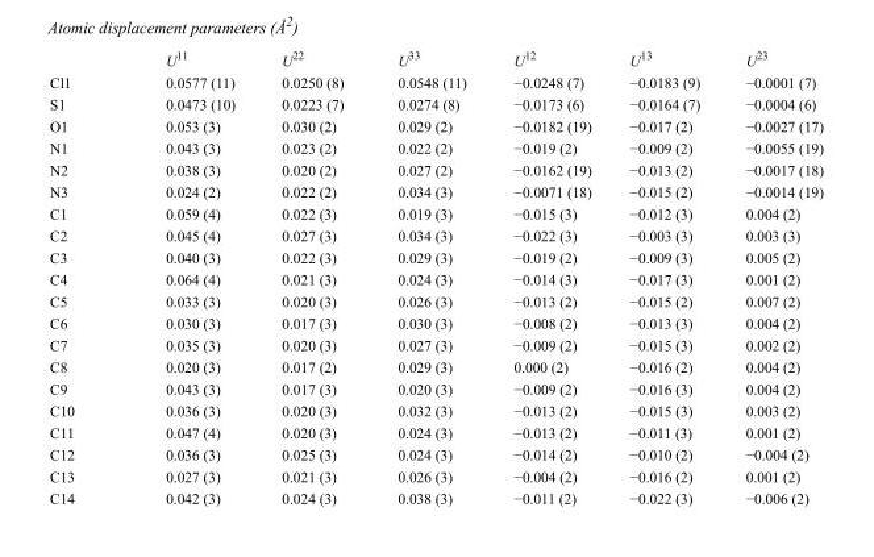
<table><thead><tr><td></td><td>U<sup>11</sup></td><td>U<sup>22</sup></td><td>U<sup>33</sup></td><td>U<sup>12</sup></td><td>U<sup>13</sup></td><td>U<sup>23</sup></td></tr></thead><tbody><tr><td>Cl1</td><td>0.0577 (11)</td><td>0.0250 (8)</td><td>0.0548 (11)</td><td>−0.0248 (7)</td><td>−0.0183 (9)</td><td>−0.0001 (7)</td></tr><tr><td>S1</td><td>0.0473 (10)</td><td>0.0223 (7)</td><td>0.0274 (8)</td><td>−0.0173 (6)</td><td>−0.0164 (7)</td><td>−0.0004 (6)</td></tr><tr><td>O1</td><td>0.053 (3)</td><td>0.030 (2)</td><td>0.029 (2)</td><td>−0.0182 (19)</td><td>−0.017 (2)</td><td>−0.0027 (17)</td></tr><tr><td>N1</td><td>0.043 (3)</td><td>0.023 (2)</td><td>0.022 (2)</td><td>−0.019 (2)</td><td>−0.009 (2)</td><td>−0.0055 (19)</td></tr><tr><td>N2</td><td>0.038 (3)</td><td>0.020 (2)</td><td>0.027 (2)</td><td>−0.0162 (19)</td><td>−0.013 (2)</td><td>−0.0017 (18)</td></tr><tr><td>N3</td><td>0.024 (2)</td><td>0.022 (2)</td><td>0.034 (3)</td><td>−0.0071 (18)</td><td>−0.015 (2)</td><td>−0.0014 (19)</td></tr><tr><td>C1</td><td>0.059 (4)</td><td>0.022 (3)</td><td>0.019 (3)</td><td>−0.015 (3)</td><td>−0.012 (3)</td><td>0.004 (2)</td></tr><tr><td>C2</td><td>0.045 (4)</td><td>0.027 (3)</td><td>0.034 (3)</td><td>−0.022 (3)</td><td>−0.003 (3)</td><td>0.003 (3)</td></tr><tr><td>C3</td><td>0.040 (3)</td><td>0.022 (3)</td><td>0.029 (3)</td><td>−0.019 (2)</td><td>−0.009 (3)</td><td>0.005 (2)</td></tr><tr><td>C4</td><td>0.064 (4)</td><td>0.021 (3)</td><td>0.024 (3)</td><td>−0.014 (3)</td><td>−0.017 (3)</td><td>0.001 (2)</td></tr><tr><td>C5</td><td>0.033 (3)</td><td>0.020 (3)</td><td>0.026 (3)</td><td>−0.013 (2)</td><td>−0.015 (2)</td><td>0.007 (2)</td></tr><tr><td>C6</td><td>0.030 (3)</td><td>0.017 (3)</td><td>0.030 (3)</td><td>−0.008 (2)</td><td>−0.013 (3)</td><td>0.004 (2)</td></tr><tr><td>C7</td><td>0.035 (3)</td><td>0.020 (3)</td><td>0.027 (3)</td><td>−0.009 (2)</td><td>−0.015 (3)</td><td>0.002 (2)</td></tr><tr><td>C8</td><td>0.020 (3)</td><td>0.017 (2)</td><td>0.029 (3)</td><td>0.000 (2)</td><td>−0.016 (2)</td><td>0.004 (2)</td></tr><tr><td>C9</td><td>0.043 (3)</td><td>0.017 (3)</td><td>0.020 (3)</td><td>−0.009 (2)</td><td>−0.016 (3)</td><td>0.004 (2)</td></tr><tr><td>C10</td><td>0.036 (3)</td><td>0.020 (3)</td><td>0.032 (3)</td><td>−0.013 (2)</td><td>−0.015 (3)</td><td>0.003 (2)</td></tr><tr><td>C11</td><td>0.047 (4)</td><td>0.020 (3)</td><td>0.024 (3)</td><td>−0.013 (2)</td><td>−0.011 (3)</td><td>0.001 (2)</td></tr><tr><td>C12</td><td>0.036 (3)</td><td>0.025 (3)</td><td>0.024 (3)</td><td>−0.014 (2)</td><td>−0.010 (2)</td><td>−0.004 (2)</td></tr><tr><td>C13</td><td>0.027 (3)</td><td>0.021 (3)</td><td>0.026 (3)</td><td>−0.004 (2)</td><td>−0.016 (2)</td><td>0.001 (2)</td></tr><tr><td>C14</td><td>0.042 (3)</td><td>0.024 (3)</td><td>0.038 (3)</td><td>−0.011 (2)</td><td>−0.022 (3)</td><td>−0.006 (2)</td></tr></tbody></table>